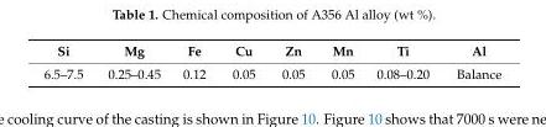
<table><thead><tr><td>Si</td><td>Mg</td><td>Fe</td><td>Cu</td><td>Zn</td><td>Mn</td><td>Ti</td><td>Al</td></tr></thead><tbody><tr><td>6.5–7.5</td><td>0.25–0.45</td><td>0.12</td><td>0.05</td><td>0.05</td><td>0.05</td><td>0.08–0.20</td><td>Balance</td></tr></tbody></table>